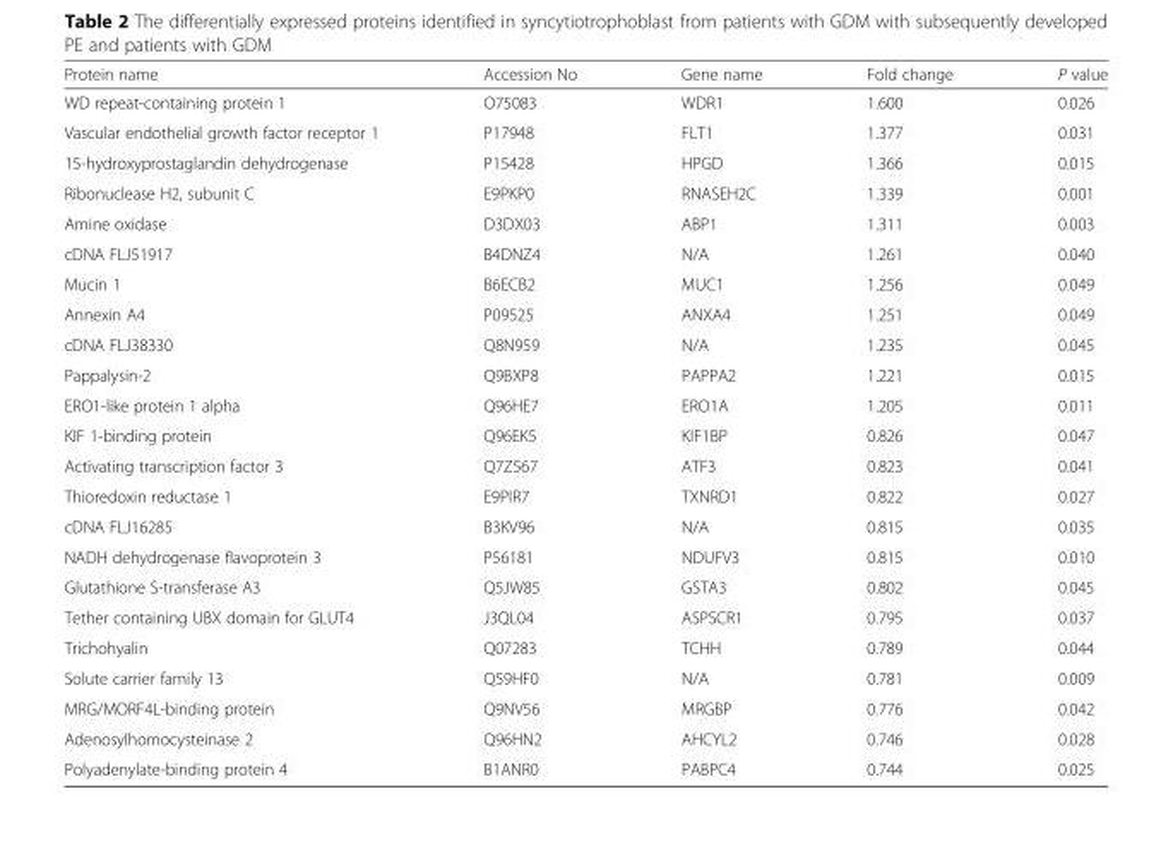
<table><thead><tr><td>Protein name</td><td>Accession No</td><td>Gene name</td><td>Fold change</td><td>P value</td></tr></thead><tbody><tr><td>WD repeat-containing protein 1</td><td>O75083</td><td>WDR1</td><td>1.600</td><td>0.026</td></tr><tr><td>Vascular endothelial growth factor receptor 1</td><td>P17948</td><td>FLT1</td><td>1.377</td><td>0.031</td></tr><tr><td>15-hydroxyprostaglandin dehydrogenase</td><td>P15428</td><td>HPGD</td><td>1.366</td><td>0.015</td></tr><tr><td>Ribonuclease H2, subunit C</td><td>E9PKP0</td><td>RNASEH2C</td><td>1.339</td><td>0.001</td></tr><tr><td>Amine oxidase</td><td>D3DX03</td><td>ABP1</td><td>1.311</td><td>0.003</td></tr><tr><td>cDNA FLJ51917</td><td>B4DNZ4</td><td>N/A</td><td>1.261</td><td>0.040</td></tr><tr><td>Mucin 1</td><td>B6ECB2</td><td>MUC1</td><td>1.256</td><td>0.049</td></tr><tr><td>Annexin A4</td><td>P09525</td><td>ANXA4</td><td>1.251</td><td>0.049</td></tr><tr><td>cDNA FLJ38330</td><td>Q8N959</td><td>N/A</td><td>1.235</td><td>0.045</td></tr><tr><td>Pappalysin-2</td><td>Q9BXP8</td><td>PAPPA2</td><td>1.221</td><td>0.015</td></tr><tr><td>ERO1-like protein 1 alpha</td><td>Q96HE7</td><td>ERO1A</td><td>1.205</td><td>0.011</td></tr><tr><td>KIF 1-binding protein</td><td>Q96EK5</td><td>KIF1BP</td><td>0.826</td><td>0.047</td></tr><tr><td>Activating transcription factor 3</td><td>Q7Z567</td><td>ATF3</td><td>0.823</td><td>0.041</td></tr><tr><td>Thioredoxin reductase 1</td><td>E9PIR7</td><td>TXNRD1</td><td>0.822</td><td>0.027</td></tr><tr><td>cDNA FLJ16285</td><td>B3KV96</td><td>N/A</td><td>0.815</td><td>0.035</td></tr><tr><td>NADH dehydrogenase flavoprotein 3</td><td>P56181</td><td>NDUFV3</td><td>0.815</td><td>0.010</td></tr><tr><td>Glutathione S-transferase A3</td><td>Q5JW85</td><td>GSTA3</td><td>0.802</td><td>0.045</td></tr><tr><td>Tether containing UBX domain for GLUT4</td><td>J3QL04</td><td>ASPSCR1</td><td>0.795</td><td>0.037</td></tr><tr><td>Trichohyalin</td><td>Q07283</td><td>TCHH</td><td>0.789</td><td>0.044</td></tr><tr><td>Solute carrier family 13</td><td>Q59HF0</td><td>N/A</td><td>0.781</td><td>0.009</td></tr><tr><td>MRG/MORF4L-binding protein</td><td>Q9NV56</td><td>MRGBP</td><td>0.776</td><td>0.042</td></tr><tr><td>Adenosylhomocysteinase 2</td><td>Q96HN2</td><td>AHCYL2</td><td>0.746</td><td>0.028</td></tr><tr><td>Polyadenylate-binding protein 4</td><td>B1ANR0</td><td>PABPC4</td><td>0.744</td><td>0.025</td></tr></tbody></table>